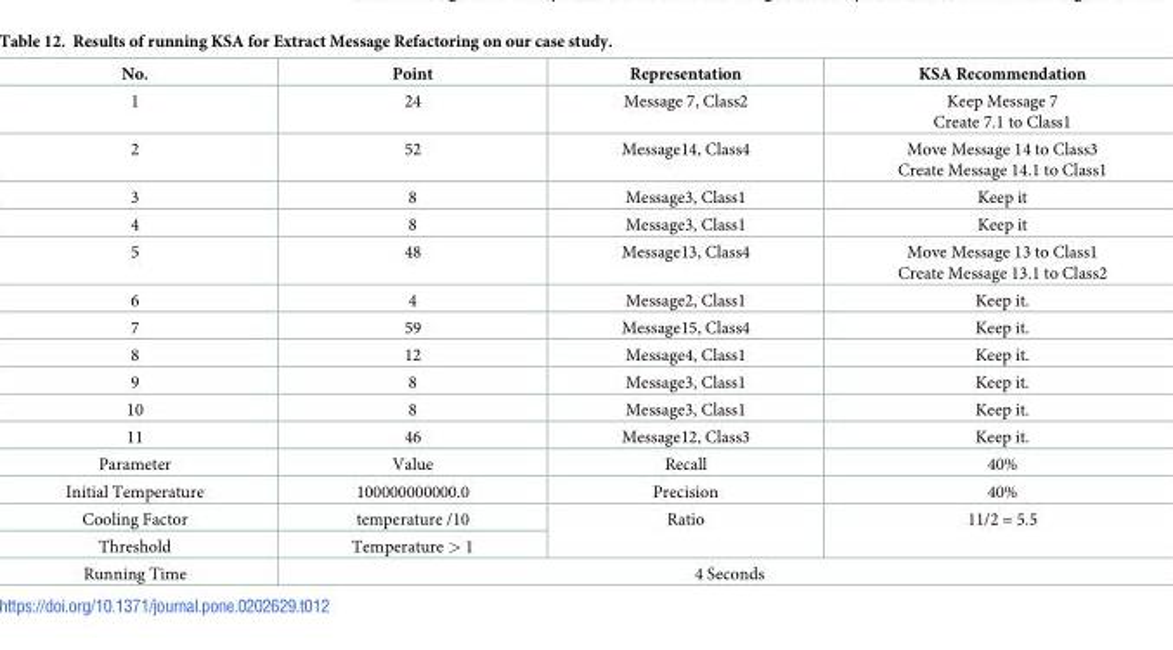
<table><thead><tr><td>No.</td><td>Point</td><td>Representation</td><td>KSA Recommendation</td></tr></thead><tbody><tr><td>1</td><td>24</td><td>Message 7, Class2</td><td>Keep Message 7 Create 7.1 to Class1</td></tr><tr><td>2</td><td>52</td><td>Message14, Class4</td><td>Move Message 14 to Class3 Create Message 14.1 to Class1</td></tr><tr><td>3</td><td>8</td><td>Message3, Class1</td><td>Keep it</td></tr><tr><td>4</td><td>8</td><td>Message3, Class1</td><td>Keep it</td></tr><tr><td>5</td><td>48</td><td>Message13, Class4</td><td>Move Message 13 to Class1 Create Message 13.1 to Class2</td></tr><tr><td>6</td><td>4</td><td>Message2, Class1</td><td>Keep it.</td></tr><tr><td>7</td><td>59</td><td>Message15, Class4</td><td>Keep it.</td></tr><tr><td>8</td><td>12</td><td>Message4, Class1</td><td>Keep it.</td></tr><tr><td>9</td><td>8</td><td>Message3, Class1</td><td>Keep it.</td></tr><tr><td>10</td><td>8</td><td>Message3, Class1</td><td>Keep it.</td></tr><tr><td>11</td><td>46</td><td>Message12, Class3</td><td>Keep it.</td></tr><tr><td>Parameter</td><td>Value</td><td>Recall</td><td>40%</td></tr><tr><td>Initial Temperature</td><td>100000000000.0</td><td>Precision</td><td>40%</td></tr><tr><td>Cooling Factor</td><td>temperature /10</td><td rowspan="2">Ratio</td><td rowspan="2">11/2 = 5.5</td></tr><tr><td>Threshold</td><td>Temperature &gt; 1</td></tr><tr><td>Running Time</td><td colspan="3">4 Seconds</td></tr></tbody></table>